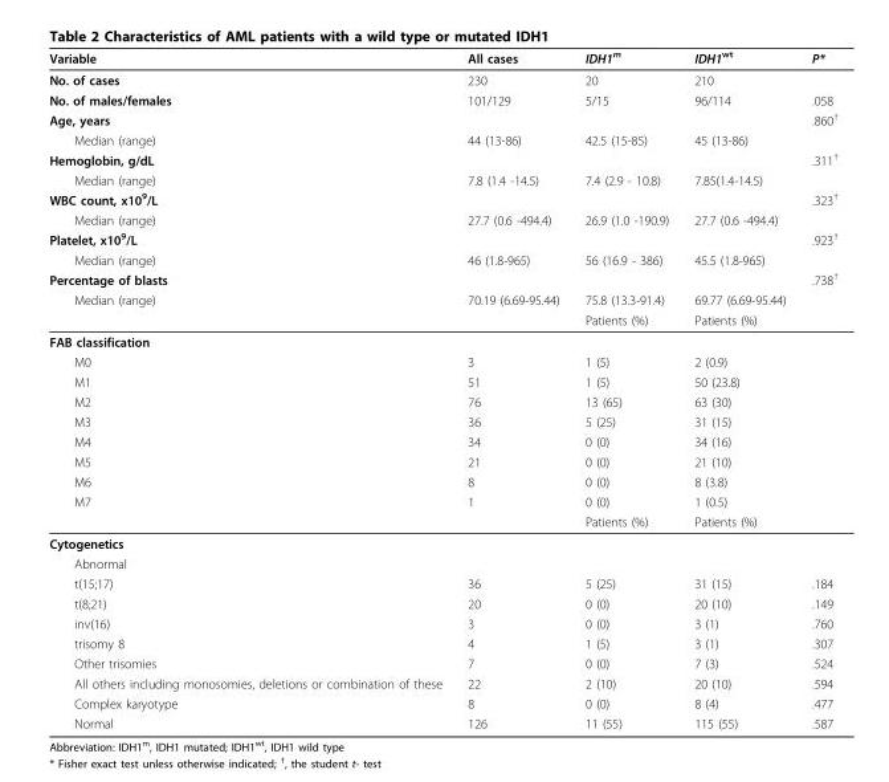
<table><thead><tr><td>Variable</td><td>All cases</td><td>IDH1<sup>m</sup></td><td>IDH1<sup>wt</sup></td><td>P*</td></tr></thead><tbody><tr><td>No. of cases</td><td>230</td><td>20</td><td>210</td><td></td></tr><tr><td>No. of males/females</td><td>101/129</td><td>5/15</td><td>96/114</td><td>.058</td></tr><tr><td>Age, years</td><td></td><td></td><td></td><td>.860<sup>†</sup></td></tr><tr><td>Median (range)</td><td>44 (13-86)</td><td>42.5 (15-85)</td><td>45 (13-86)</td><td></td></tr><tr><td>Hemoglobin, g/dL</td><td></td><td></td><td></td><td>.311<sup>†</sup></td></tr><tr><td>Median (range)</td><td>7.8 (1.4 -14.5)</td><td>7.4 (2.9 - 10.8)</td><td>7.85(1.4-14.5)</td><td></td></tr><tr><td>WBC count, x10<sup>9</sup>/L</td><td></td><td></td><td></td><td>.323<sup>†</sup></td></tr><tr><td>Median (range)</td><td>27.7 (0.6 -494.4)</td><td>26.9 (1.0 -190.9)</td><td>27.7 (0.6 -494.4)</td><td></td></tr><tr><td>Platelet, x10<sup>9</sup>/L</td><td></td><td></td><td></td><td>.923<sup>†</sup></td></tr><tr><td>Median (range)</td><td>46 (1.8-965)</td><td>56 (16.9 - 386)</td><td>45.5 (1.8-965)</td><td></td></tr><tr><td>Percentage of blasts</td><td></td><td></td><td></td><td>.738<sup>†</sup></td></tr><tr><td rowspan="2">Median (range)</td><td>70.19 (6.69-95.44)</td><td>75.8 (13.3-91.4)</td><td>69.77 (6.69-95.44)</td><td></td></tr><tr><td></td><td>Patients (%)</td><td>Patients (%)</td><td></td></tr><tr><td colspan="5">FAB classification</td></tr><tr><td>M0</td><td>3</td><td>1 (5)</td><td>2 (0.9)</td><td></td></tr><tr><td>M1</td><td>51</td><td>1 (5)</td><td>50 (23.8)</td><td></td></tr><tr><td>M2</td><td>76</td><td>13 (65)</td><td>63 (30)</td><td></td></tr><tr><td>M3</td><td>36</td><td>5 (25)</td><td>31 (15)</td><td></td></tr><tr><td>M4</td><td>34</td><td>0 (0)</td><td>34 (16)</td><td></td></tr><tr><td>M5</td><td>21</td><td>0 (0)</td><td>21 (10)</td><td></td></tr><tr><td>M6</td><td>8</td><td>0 (0)</td><td>8 (3.8)</td><td></td></tr><tr><td rowspan="2">M7</td><td>1</td><td>0 (0)</td><td>1 (0.5)</td><td></td></tr><tr><td></td><td>Patients (%)</td><td>Patients (%)</td><td></td></tr><tr><td colspan="5">Cytogenetics</td></tr><tr><td colspan="5">Abnormal</td></tr><tr><td>t(15;17)</td><td>36</td><td>5 (25)</td><td>31 (15)</td><td>.184</td></tr><tr><td>t(8;21)</td><td>20</td><td>0 (0)</td><td>20 (10)</td><td>.149</td></tr><tr><td>inv(16)</td><td>3</td><td>0 (0)</td><td>3 (1)</td><td>.760</td></tr><tr><td>trisomy 8</td><td>4</td><td>1 (5)</td><td>3 (1)</td><td>.307</td></tr><tr><td>Other trisomies</td><td>7</td><td>0 (0)</td><td>7 (3)</td><td>.524</td></tr><tr><td>All others including monosomies, deletions or combination of these</td><td>22</td><td>2 (10)</td><td>20 (10)</td><td>.594</td></tr><tr><td>Complex karyotype</td><td>8</td><td>0 (0)</td><td>8 (4)</td><td>.477</td></tr><tr><td>Normal</td><td>126</td><td>11 (55)</td><td>115 (55)</td><td>.587</td></tr></tbody></table>